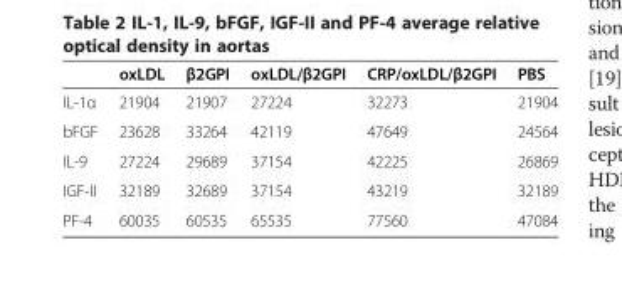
<table><thead><tr><td></td><td>oxLDL</td><td>β2GPI</td><td>oxLDL/β2GPI</td><td>CRP/oxLDL/β2GPI</td><td>PBS</td></tr></thead><tbody><tr><td>IL-1α</td><td>21904</td><td>21907</td><td>27224</td><td>32273</td><td>21904</td></tr><tr><td>bFGF</td><td>23628</td><td>33264</td><td>42119</td><td>47649</td><td>24564</td></tr><tr><td>IL-9</td><td>27224</td><td>29689</td><td>37154</td><td>42225</td><td>26869</td></tr><tr><td>IGF-II</td><td>32189</td><td>32689</td><td>37154</td><td>43219</td><td>32189</td></tr><tr><td>PF-4</td><td>60035</td><td>60535</td><td>65535</td><td>77560</td><td>47084</td></tr></tbody></table>